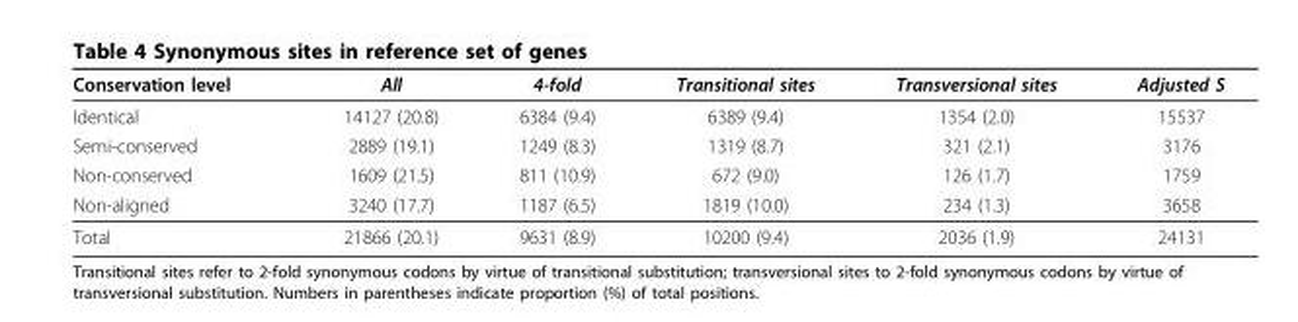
<table><thead><tr><td>Conservation level</td><td>All</td><td>4-fold</td><td>Transitional sites</td><td>Transversional sites</td><td>Adjusted S</td></tr></thead><tbody><tr><td>Identical</td><td>14127 (20.8)</td><td>6384 (9.4)</td><td>6389 (9.4)</td><td>1354 (2.0)</td><td>15537</td></tr><tr><td>Semi-conserved</td><td>2889 (19.1)</td><td>1249 (8.3)</td><td>1319 (8.7)</td><td>321 (2.1)</td><td>3176</td></tr><tr><td>Non-conserved</td><td>1609 (21.5)</td><td>811 (10.9)</td><td>672 (9.0)</td><td>126 (1.7)</td><td>1759</td></tr><tr><td>Non-aligned</td><td>3240 (17.7)</td><td>1187 (6.5)</td><td>1819 (10.0)</td><td>234 (1.3)</td><td>3658</td></tr><tr><td>Total</td><td>21866 (20.1)</td><td>9631 (8.9)</td><td>10200 (9.4)</td><td>2036 (1.9)</td><td>24131</td></tr></tbody></table>